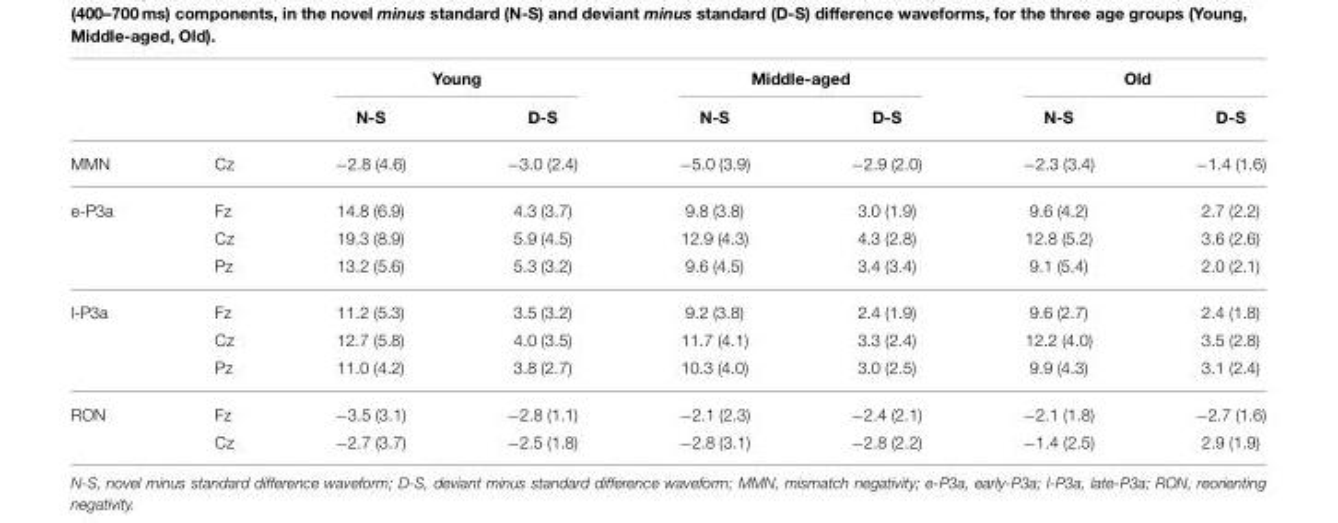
<table><thead><tr><td rowspan="2"></td><td rowspan="2"></td><td colspan="2">Young</td><td colspan="2">Middle-aged</td><td colspan="2">Old</td></tr><tr><td>N-S</td><td>D-S</td><td>N-S</td><td>D-S</td><td>N-S</td><td>D-S</td></tr></thead><tbody><tr><td>MMN</td><td>Cz</td><td>−2.8 (4.6)</td><td>−3.0 (2.4)</td><td>−5.0 (3.9)</td><td>−2.9 (2.0)</td><td>−2.3 (3.4)</td><td>−1.4 (1.6)</td></tr><tr><td rowspan="3">e-P3a</td><td>Fz</td><td>14.8 (6.9)</td><td>4.3 (3.7)</td><td>9.8 (3.8)</td><td>3.0 (1.9)</td><td>9.6 (4.2)</td><td>2.7 (2.2)</td></tr><tr><td>Cz</td><td>19.3 (8.9)</td><td>5.9 (4.5)</td><td>12.9 (4.3)</td><td>4.3 (2.8)</td><td>12.8 (5.2)</td><td>3.6 (2.6)</td></tr><tr><td>Pz</td><td>13.2 (5.6)</td><td>5.3 (3.2)</td><td>9.6 (4.5)</td><td>3.4 (3.4)</td><td>9.1 (5.4)</td><td>2.0 (2.1)</td></tr><tr><td rowspan="3">l-P3a</td><td>Fz</td><td>11.2 (5.3)</td><td>3.5 (3.2)</td><td>9.2 (3.8)</td><td>2.4 (1.9)</td><td>9.6 (2.7)</td><td>2.4 (1.8)</td></tr><tr><td>Cz</td><td>12.7 (5.8)</td><td>4.0 (3.5)</td><td>11.7 (4.1)</td><td>3.3 (2.4)</td><td>12.2 (4.0)</td><td>3.5 (2.8)</td></tr><tr><td>Pz</td><td>11.0 (4.2)</td><td>3.8 (2.7)</td><td>10.3 (4.0)</td><td>3.0 (2.5)</td><td>9.9 (4.3)</td><td>3.1 (2.4)</td></tr><tr><td rowspan="2">RON</td><td>Fz</td><td>−3.5 (3.1)</td><td>−2.8 (1.1)</td><td>−2.1 (2.3)</td><td>−2.4 (2.1)</td><td>−2.1 (1.8)</td><td>−2.7 (1.6)</td></tr><tr><td>Cz</td><td>−2.7 (3.7)</td><td>−2.5 (1.8)</td><td>−2.8 (3.1)</td><td>−2.8 (2.2)</td><td>−1.4 (2.5)</td><td>2.9 (1.9)</td></tr></tbody></table>